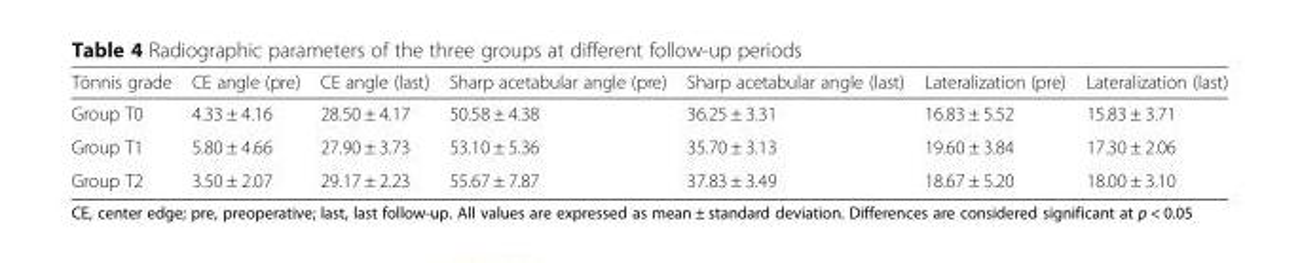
<table><thead><tr><td>Tönnis grade</td><td>CE angle (pre)</td><td>CE angle (last)</td><td>Sharp acetabular angle (pre)</td><td>Sharp acetabular angle (last)</td><td>Lateralization (pre)</td><td>Lateralization (last)</td></tr></thead><tbody><tr><td>Group T0</td><td>4.33 ± 4.16</td><td>28.50 ± 4.17</td><td>50.58 ± 4.38</td><td>36.25 ± 3.31</td><td>16.83 ± 5.52</td><td>15.83 ± 3.71</td></tr><tr><td>Group T1</td><td>5.80 ± 4.66</td><td>27.90 ± 3.73</td><td>53.10 ± 5.36</td><td>35.70 ± 3.13</td><td>19.60 ± 3.84</td><td>17.30 ± 2.06</td></tr><tr><td>Group T2</td><td>3.50 ± 2.07</td><td>29.17 ± 2.23</td><td>55.67 ± 7.87</td><td>37.83 ± 3.49</td><td>18.67 ± 5.20</td><td>18.00 ± 3.10</td></tr></tbody></table>